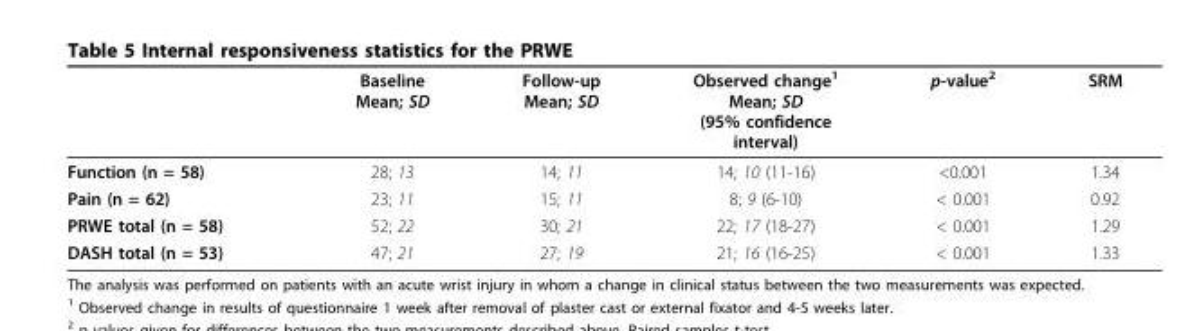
<table><thead><tr><td></td><td>Baseline Mean; SD</td><td>Follow-up Mean; SD</td><td>Observed change<sup>1</sup> Mean; SD (95% confidence interval)</td><td>p-value<sup>2</sup></td><td>SRM</td></tr></thead><tbody><tr><td>Function (n = 58)</td><td>28; 13</td><td>14; 11</td><td>14; 10 (11-16)</td><td>&lt;0.001</td><td>1.34</td></tr><tr><td>Pain (n = 62)</td><td>23; 11</td><td>15; 11</td><td>8; 9 (6-10)</td><td>&lt; 0.001</td><td>0.92</td></tr><tr><td>PRWE total (n = 58)</td><td>52; 22</td><td>30; 21</td><td>22; 17 (18-27)</td><td>&lt; 0.001</td><td>1.29</td></tr><tr><td>DASH total (n = 53)</td><td>47; 21</td><td>27; 19</td><td>21; 16 (16-25)</td><td>&lt; 0.001</td><td>1.33</td></tr></tbody></table>